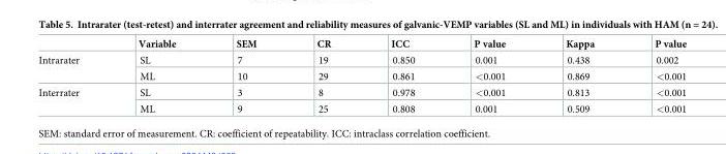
<table><thead><tr><td></td><td>Variable</td><td>SEM</td><td>CR</td><td>ICC</td><td>P value</td><td>Kappa</td><td>P value</td></tr></thead><tbody><tr><td rowspan="2">Intrarater</td><td>SL</td><td>7</td><td>19</td><td>0.850</td><td>0.001</td><td>0.438</td><td>0.002</td></tr><tr><td>ML</td><td>10</td><td>29</td><td>0.861</td><td>&lt;0.001</td><td>0.869</td><td>&lt;0.001</td></tr><tr><td rowspan="2">Interrater</td><td>SL</td><td>3</td><td>8</td><td>0.978</td><td>&lt;0.001</td><td>0.813</td><td>&lt;0.001</td></tr><tr><td>ML</td><td>9</td><td>25</td><td>0.808</td><td>0.001</td><td>0.509</td><td>&lt;0.001</td></tr></tbody></table>